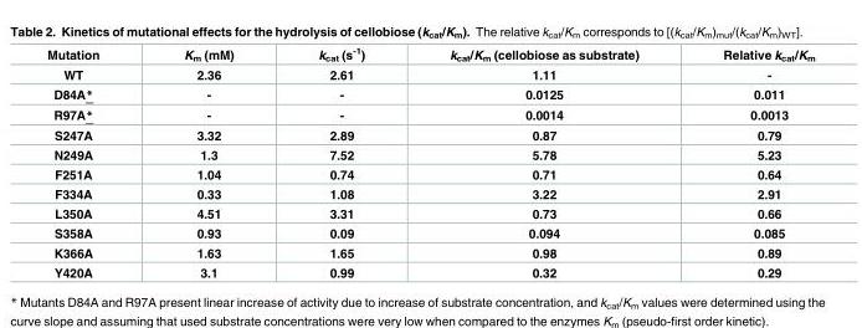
<table><thead><tr><td>Mutation</td><td>K<sub>m</sub> (mM)</td><td>k<sub>cat</sub> (s<sup>-1</sup>)</td><td>k<sub>cat</sub>/K<sub>m</sub> (cellobiose as substrate)</td><td>Relative k<sub>cat</sub>/K<sub>m</sub></td></tr></thead><tbody><tr><td>WT</td><td>2.36</td><td>2.61</td><td>1.11</td><td>-</td></tr><tr><td>D84A*</td><td>-</td><td>-</td><td>0.0125</td><td>0.011</td></tr><tr><td>R97A*</td><td>-</td><td>-</td><td>0.0014</td><td>0.0013</td></tr><tr><td>S247A</td><td>3.32</td><td>2.89</td><td>0.87</td><td>0.79</td></tr><tr><td>N249A</td><td>1.3</td><td>7.52</td><td>5.78</td><td>5.23</td></tr><tr><td>F251A</td><td>1.04</td><td>0.74</td><td>0.71</td><td>0.64</td></tr><tr><td>F334A</td><td>0.33</td><td>1.08</td><td>3.22</td><td>2.91</td></tr><tr><td>L350A</td><td>4.51</td><td>3.31</td><td>0.73</td><td>0.66</td></tr><tr><td>S358A</td><td>0.93</td><td>0.09</td><td>0.094</td><td>0.085</td></tr><tr><td>K366A</td><td>1.63</td><td>1.65</td><td>0.98</td><td>0.89</td></tr><tr><td>Y420A</td><td>3.1</td><td>0.99</td><td>0.32</td><td>0.29</td></tr></tbody></table>